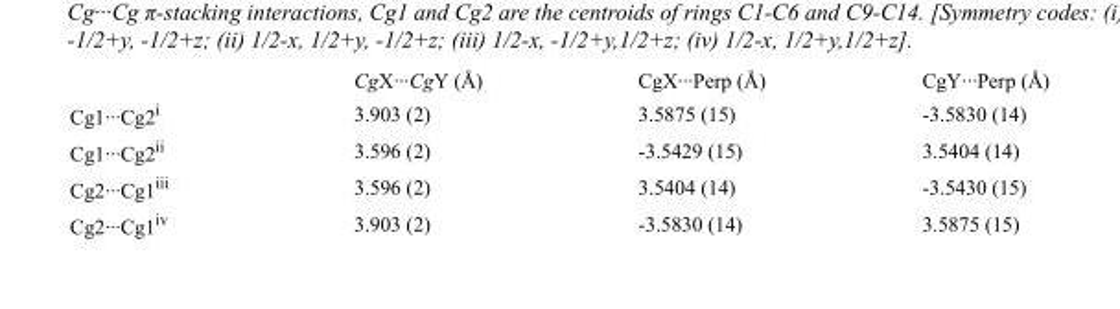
<table><thead><tr><td></td><td>CgX···CgY (Å)</td><td>CgX···Perp (Å)</td><td>CgY···Perp (Å)</td></tr></thead><tbody><tr><td>Cg1···Cg2<sup>i</sup></td><td>3.903 (2)</td><td>3.5875 (15)</td><td>-3.5830 (14)</td></tr><tr><td>Cg1···Cg2<sup>ii</sup></td><td>3.596 (2)</td><td>-3.5429 (15)</td><td>3.5404 (14)</td></tr><tr><td>Cg2···Cg1<sup>iii</sup></td><td>3.596 (2)</td><td>3.5404 (14)</td><td>-3.5430 (15)</td></tr><tr><td>Cg2···Cg1<sup>iv</sup></td><td>3.903 (2)</td><td>-3.5830 (14)</td><td>3.5875 (15)</td></tr></tbody></table>